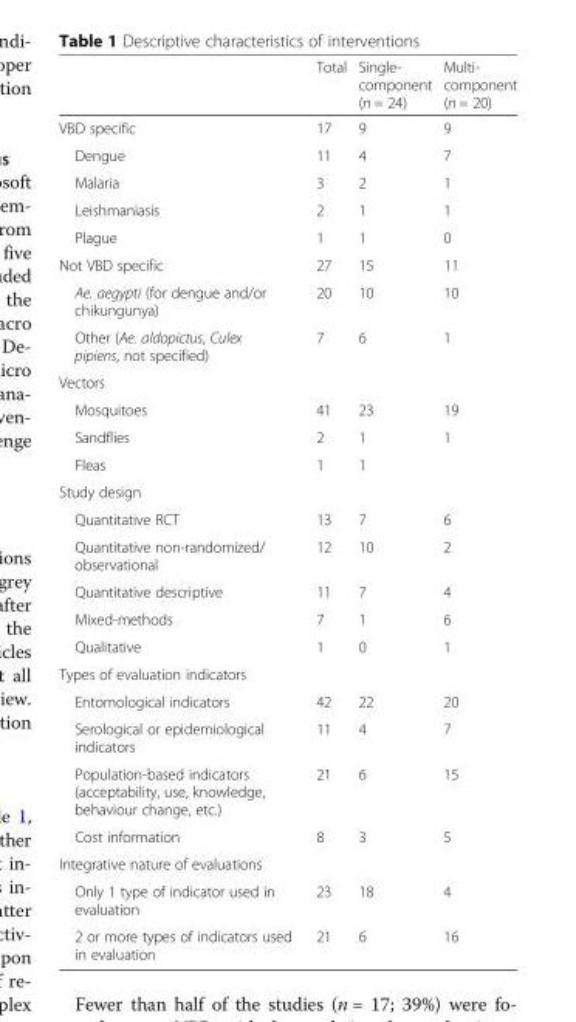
<table><thead><tr><td></td><td>Total</td><td>Single- component (n = 24)</td><td>Multi- component (n = 20)</td></tr></thead><tbody><tr><td>VBD specific</td><td>17</td><td>9</td><td>9</td></tr><tr><td>Dengue</td><td>11</td><td>4</td><td>7</td></tr><tr><td>Malaria</td><td>3</td><td>2</td><td>1</td></tr><tr><td>Leishmaniasis</td><td>2</td><td>1</td><td>1</td></tr><tr><td>Plague</td><td>1</td><td>1</td><td>0</td></tr><tr><td>Not VBD specific</td><td>27</td><td>15</td><td>11</td></tr><tr><td>Ae. aegypti (for dengue and/or chikungunya)</td><td>20</td><td>10</td><td>10</td></tr><tr><td>Other (Ae. aldopictus, Culex pipiens, not specified)</td><td>7</td><td>6</td><td>1</td></tr><tr><td colspan="4">Vectors</td></tr><tr><td>Mosquitoes</td><td>41</td><td>23</td><td>19</td></tr><tr><td>Sandflies</td><td>2</td><td>1</td><td>1</td></tr><tr><td>Fleas</td><td>1</td><td>1</td><td></td></tr><tr><td colspan="4">Study design</td></tr><tr><td>Quantitative RCT</td><td>13</td><td>7</td><td>6</td></tr><tr><td>Quantitative non-randomized/ observational</td><td>12</td><td>10</td><td>2</td></tr><tr><td>Quantitative descriptive</td><td>11</td><td>7</td><td>4</td></tr><tr><td>Mixed-methods</td><td>7</td><td>1</td><td>6</td></tr><tr><td>Qualitative</td><td>1</td><td>0</td><td>1</td></tr><tr><td colspan="4">Types of evaluation indicators</td></tr><tr><td>Entomological indicators</td><td>42</td><td>22</td><td>20</td></tr><tr><td>Serological or epidemiological indicators</td><td>11</td><td>4</td><td>7</td></tr><tr><td>Population-based indicators (acceptability, use, knowledge, behaviour change, etc.)</td><td>21</td><td>6</td><td>15</td></tr><tr><td>Cost information</td><td>8</td><td>3</td><td>5</td></tr><tr><td colspan="4">Integrative nature of evaluations</td></tr><tr><td>Only 1 type of indicator used in evaluation</td><td>23</td><td>18</td><td>4</td></tr><tr><td>2 or more types of indicators used in evaluation</td><td>21</td><td>6</td><td>16</td></tr></tbody></table>